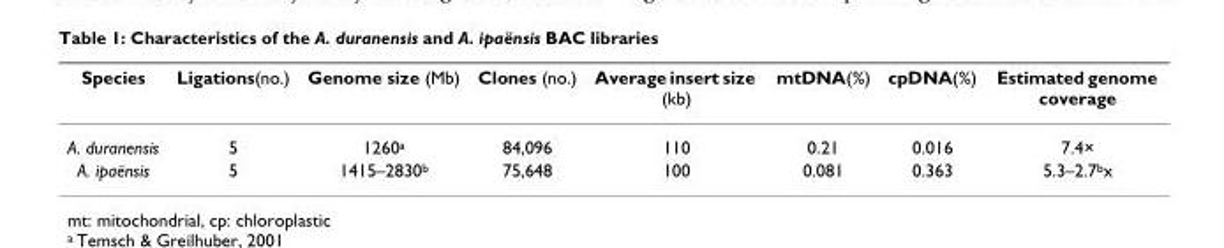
<table><thead><tr><td>Species</td><td>Ligations(no.)</td><td>Genome size (Mb)</td><td>Clones (no.)</td><td>Average insert size (kb)</td><td>mtDNA(%)</td><td>cpDNA(%)</td><td>Estimated genome coverage</td></tr></thead><tbody><tr><td>A. duranensis</td><td>5</td><td>1260<sup>a</sup></td><td>84,096</td><td>110</td><td>0.21</td><td>0.016</td><td>7.4×</td></tr><tr><td>A. ipaënsis</td><td>5</td><td>1415–2830<sup>b</sup></td><td>75,648</td><td>100</td><td>0.081</td><td>0.363</td><td>5.3–2.7<sup>b</sup>x</td></tr></tbody></table>